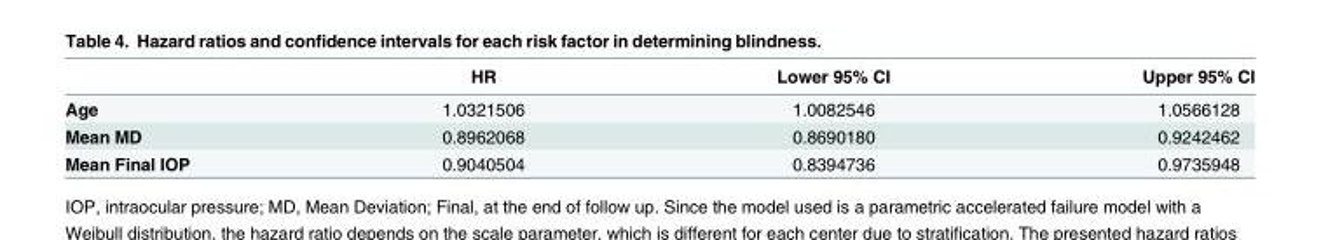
<table><thead><tr><td></td><td>HR</td><td>Lower 95% CI</td><td>Upper 95% CI</td></tr></thead><tbody><tr><td>Age</td><td>1.0321506</td><td>1.0082546</td><td>1.0566128</td></tr><tr><td>Mean MD</td><td>0.8962068</td><td>0.8690180</td><td>0.9242462</td></tr><tr><td>Mean Final IOP</td><td>0.9040504</td><td>0.8394736</td><td>0.9735948</td></tr></tbody></table>